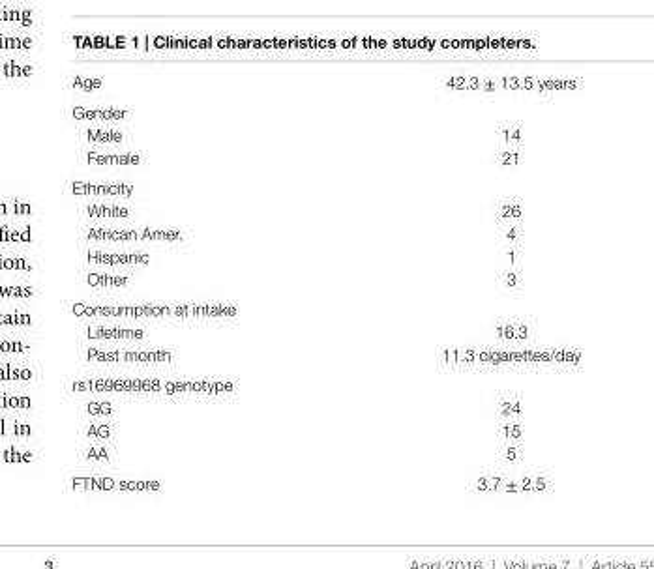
<table><tbody><tr><td>Age</td><td>42.3 ± 13.5 years</td></tr><tr><td colspan="2">Gender</td></tr><tr><td>Male</td><td>14</td></tr><tr><td>Female</td><td>21</td></tr><tr><td colspan="2">Ethnicity</td></tr><tr><td>White</td><td>26</td></tr><tr><td>African Amer.</td><td>4</td></tr><tr><td>Hispanic</td><td>1</td></tr><tr><td>Other</td><td>3</td></tr><tr><td colspan="2">Consumption at intake</td></tr><tr><td>Lifetime</td><td>16.3</td></tr><tr><td>Past month</td><td>11.3 cigarettes/day</td></tr><tr><td colspan="2">rs16969968 genotype</td></tr><tr><td>GG</td><td>24</td></tr><tr><td>AG</td><td>15</td></tr><tr><td>AA</td><td>5</td></tr><tr><td>FTND score</td><td>3.7 ± 2.5</td></tr></tbody></table>